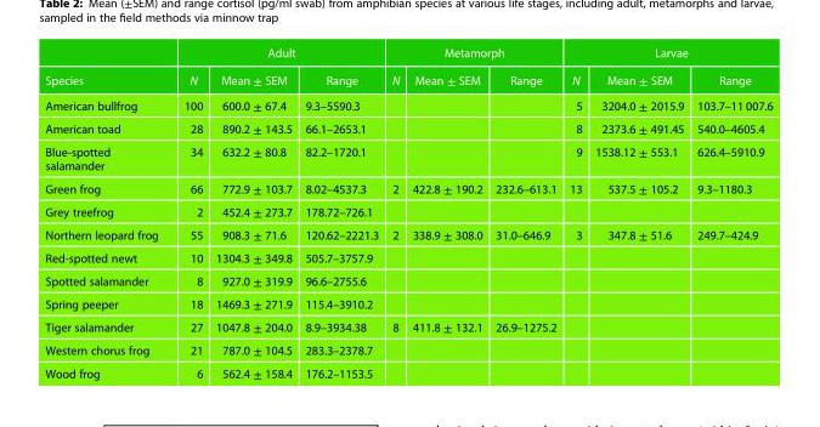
<table><thead><tr><td rowspan="2">Species</td><td colspan="3">Adult</td><td colspan="3">Metamorph</td><td colspan="3">Larvae</td></tr><tr><td>N</td><td>Mean ± SEM</td><td>Range</td><td>N</td><td>Mean ± SEM</td><td>Range</td><td>N</td><td>Mean ± SEM</td><td>Range</td></tr></thead><tbody><tr><td>American bullfrog</td><td>100</td><td>600.0 ± 67.4</td><td>9.3–5590.3</td><td></td><td></td><td></td><td>5</td><td>3204.0 ± 2015.9</td><td>103.7–11 007.6</td></tr><tr><td>American toad</td><td>28</td><td>890.2 ± 143.5</td><td>66.1–2653.1</td><td></td><td></td><td></td><td>8</td><td>2373.6 ± 491.45</td><td>540.0–4605.4</td></tr><tr><td>Blue-spotted salamander</td><td>34</td><td>632.2 ± 80.8</td><td>82.2–1720.1</td><td></td><td></td><td></td><td>9</td><td>1538.12 ± 553.1</td><td>626.4–5910.9</td></tr><tr><td>Green frog</td><td>66</td><td>772.9 ± 103.7</td><td>8.02–4537.3</td><td>2</td><td>422.8 ± 190.2</td><td>232.6–613.1</td><td>13</td><td>537.5 ± 105.2</td><td>9.3–1180.3</td></tr><tr><td>Grey treefrog</td><td>2</td><td>452.4 ± 273.7</td><td>178.72–726.1</td><td></td><td></td><td></td><td></td><td></td><td></td></tr><tr><td>Northern leopard frog</td><td>55</td><td>908.3 ± 71.6</td><td>120.62–2221.3</td><td>2</td><td>338.9 ± 308.0</td><td>31.0–646.9</td><td>3</td><td>347.8 ± 51.6</td><td>249.7–424.9</td></tr><tr><td>Red-spotted newt</td><td>10</td><td>1304.3 ± 349.8</td><td>505.7–3757.9</td><td></td><td></td><td></td><td></td><td></td><td></td></tr><tr><td>Spotted salamander</td><td>8</td><td>927.0 ± 319.9</td><td>96.6–2755.6</td><td></td><td></td><td></td><td></td><td></td><td></td></tr><tr><td>Spring peeper</td><td>18</td><td>1469.3 ± 271.9</td><td>115.4–3910.2</td><td></td><td></td><td></td><td></td><td></td><td></td></tr><tr><td>Tiger salamander</td><td>27</td><td>1047.8 ± 204.0</td><td>8.9–3934.38</td><td>8</td><td>411.8 ± 132.1</td><td>26.9–1275.2</td><td></td><td></td><td></td></tr><tr><td>Western chorus frog</td><td>21</td><td>787.0 ± 104.5</td><td>283.3–2378.7</td><td></td><td></td><td></td><td></td><td></td><td></td></tr><tr><td>Wood frog</td><td>6</td><td>562.4 ± 158.4</td><td>176.2–1153.5</td><td></td><td></td><td></td><td></td><td></td><td></td></tr></tbody></table>